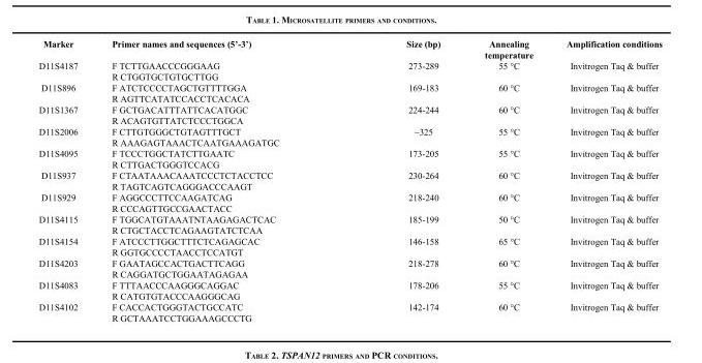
<table><thead><tr><td>Marker</td><td>Primer names and sequences (5’-3’)</td><td>Size (bp)</td><td>Annealing temperature</td><td>Amplification conditions</td></tr></thead><tbody><tr><td rowspan="2">D11S4187</td><td>F TCTTGAACCCGGGAAG</td><td>273-289</td><td>55 °C</td><td>Invitrogen Taq &amp; buffer</td></tr><tr><td>R CTGGTGCTGTGCTTGG</td><td></td><td></td><td></td></tr><tr><td rowspan="2">D11S896</td><td>F ATCTCCCCTAGCTGTTTTGGA</td><td>169-183</td><td>60 °C</td><td>Invitrogen Taq &amp; buffer</td></tr><tr><td>R AGTTCATATCCACCTCACACA</td><td></td><td></td><td></td></tr><tr><td rowspan="2">D11S1367</td><td>F GCTGACATTTATTCACATGGC</td><td>224-244</td><td>60 °C</td><td>Invitrogen Taq &amp; buffer</td></tr><tr><td>R ACAGTGTTATCTCCCTGGCA</td><td></td><td></td><td></td></tr><tr><td rowspan="2">D11S2006</td><td>F CTTGTGGGCTGTAGTTTGCT</td><td>~325</td><td>55 °C</td><td>Invitrogen Taq &amp; buffer</td></tr><tr><td>R AAAGAGTAAACTCAATGAAAGATGC</td><td></td><td></td><td></td></tr><tr><td rowspan="2">D11S4095</td><td>F TCCCTGGCTATCTTGAATC</td><td>173-205</td><td>55 °C</td><td>Invitrogen Taq &amp; buffer</td></tr><tr><td>R CTTGACTGGGTCCACG</td><td></td><td></td><td></td></tr><tr><td rowspan="2">D11S937</td><td>F CTAATAAACAAATCCCTCTACCTCC</td><td>230-264</td><td>60 °C</td><td>Invitrogen Taq &amp; buffer</td></tr><tr><td>R TAGTCAGTCAGGGACCCAAGT</td><td></td><td></td><td></td></tr><tr><td rowspan="2">D11S929</td><td>F AGGCCCTTCCAAGATCAG</td><td>218-240</td><td>60 °C</td><td>Invitrogen Taq &amp; buffer</td></tr><tr><td>R CCCAGTTGCCGAACTACC</td><td></td><td></td><td></td></tr><tr><td rowspan="2">D11S4115</td><td>F TGGCATGTAAATNTAAGAGACTCAC</td><td>185-199</td><td>50 °C</td><td>Invitrogen Taq &amp; buffer</td></tr><tr><td>R CTGCTACCTCAGAAGTATCTCAA</td><td></td><td></td><td></td></tr><tr><td rowspan="2">D11S4154</td><td>F ATCCCTTGGCTTTCTCAGAGCAC</td><td>146-158</td><td>65 °C</td><td>Invitrogen Taq &amp; buffer</td></tr><tr><td>R GGTGCCCCTAACCTCCATGT</td><td></td><td></td><td></td></tr><tr><td rowspan="2">D11S4203</td><td>F GAATAGCCACTGACTTCAGG</td><td>218-278</td><td>60 °C</td><td>Invitrogen Taq &amp; buffer</td></tr><tr><td>R CAGGATGCTGGAATAGAGAA</td><td></td><td></td><td></td></tr><tr><td rowspan="2">D11S4083</td><td>F TTTAACCCAAGGGCAGGAC</td><td>178-206</td><td>55 °C</td><td>Invitrogen Taq &amp; buffer</td></tr><tr><td>R CATGTGTACCCAAGGGCAG</td><td></td><td></td><td></td></tr><tr><td rowspan="2">D11S4102</td><td>F CACCACTGGGTACTGCCATC</td><td>142-174</td><td>60 °C</td><td>Invitrogen Taq &amp; buffer</td></tr><tr><td>R GCTAAATCCTGGAAAGCCCTG</td><td></td><td></td><td></td></tr></tbody></table>